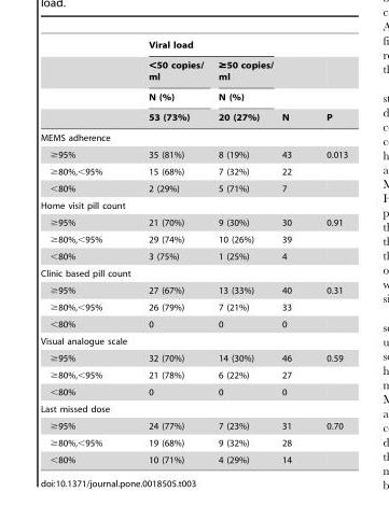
<table><thead><tr><td rowspan="4"></td><td colspan="2">Viral load</td><td rowspan="4">N</td><td rowspan="4">P</td></tr><tr><td rowspan="3">&lt;50 copies/ ml N (%) 53 (73%)</td><td rowspan="3">≥50 copies/ ml N (%) 20 (27%)</td></tr><tr></tr><tr></tr></thead><tbody><tr><td colspan="5">MEMS adherence</td></tr><tr><td>≥95%</td><td>35 (81%)</td><td>8 (19%)</td><td>43</td><td>0.013</td></tr><tr><td>≥80%,&lt;95%</td><td>15 (68%)</td><td>7 (32%)</td><td>22</td><td></td></tr><tr><td>&lt;80%</td><td>2 (29%)</td><td>5 (71%)</td><td>7</td><td></td></tr><tr><td colspan="5">Home visit pill count</td></tr><tr><td>≥95%</td><td>21 (70%)</td><td>9 (30%)</td><td>30</td><td>0.91</td></tr><tr><td>≥80%,&lt;95%</td><td>29 (74%)</td><td>10 (26%)</td><td>39</td><td></td></tr><tr><td>&lt;80%</td><td>3 (75%)</td><td>1 (25%)</td><td>4</td><td></td></tr><tr><td colspan="5">Clinic based pill count</td></tr><tr><td>≥95%</td><td>27 (67%)</td><td>13 (33%)</td><td>40</td><td>0.31</td></tr><tr><td>≥80%,&lt;95%</td><td>26 (79%)</td><td>7 (21%)</td><td>33</td><td></td></tr><tr><td>&lt;80%</td><td>0</td><td>0</td><td>0</td><td></td></tr><tr><td colspan="5">Visual analogue scale</td></tr><tr><td>≥95%</td><td>32 (70%)</td><td>14 (30%)</td><td>46</td><td>0.59</td></tr><tr><td>≥80%,&lt;95%</td><td>21 (78%)</td><td>6 (22%)</td><td>27</td><td></td></tr><tr><td>&lt;80%</td><td>0</td><td>0</td><td>0</td><td></td></tr><tr><td colspan="5">Last missed dose</td></tr><tr><td>≥95%</td><td>24 (77%)</td><td>7 (23%)</td><td>31</td><td>0.70</td></tr><tr><td>≥80%,&lt;95%</td><td>19 (68%)</td><td>9 (32%)</td><td>28</td><td></td></tr><tr><td>&lt;80%</td><td>10 (71%)</td><td>4 (29%)</td><td>14</td><td></td></tr></tbody></table>